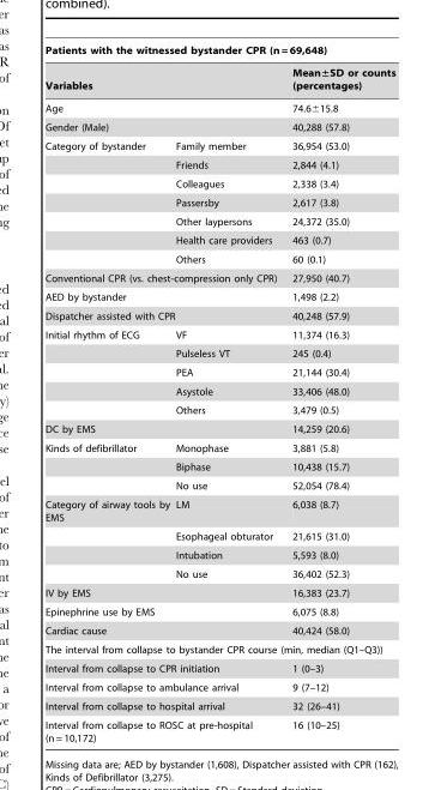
<table><thead><tr><td colspan="3">Patients with the witnessed bystander CPR (n = 69,648)</td></tr><tr><td rowspan="3" colspan="2">Variables Age Gender (Male)</td><td rowspan="4">Mean±SD or counts (percentages) 74.6±15.8 40,288 (57.8) 36,954 (53.0)</td></tr><tr></tr><tr></tr><tr><td>Category of bystander</td><td>Family member</td></tr></thead><tbody><tr><td></td><td>Friends</td><td>2,844 (4.1)</td></tr><tr><td></td><td>Colleagues</td><td>2,338 (3.4)</td></tr><tr><td></td><td>Passersby</td><td>2,617 (3.8)</td></tr><tr><td></td><td>Other laypersons</td><td>24,372 (35.0)</td></tr><tr><td></td><td>Health care providers</td><td>463 (0.7)</td></tr><tr><td></td><td>Others</td><td>60 (0.1)</td></tr><tr><td colspan="2">Conventional CPR (vs. chest-compression only CPR)</td><td>27,950 (40.7)</td></tr><tr><td colspan="2">AED by bystander</td><td>1,498 (2.2)</td></tr><tr><td colspan="2">Dispatcher assisted with CPR</td><td>40,248 (57.9)</td></tr><tr><td rowspan="5">Initial rhythm of ECG</td><td>VF</td><td>11,374 (16.3)</td></tr><tr><td>Pulseless VT</td><td>245 (0.4)</td></tr><tr><td>PEA</td><td>21,144 (30.4)</td></tr><tr><td>Asystole</td><td>33,406 (48.0)</td></tr><tr><td>Others</td><td>3,479 (0.5)</td></tr><tr><td colspan="2">DC by EMS</td><td>14,259 (20.6)</td></tr><tr><td rowspan="3">Kinds of defibrillator</td><td>Monophase</td><td>3,881 (5.8)</td></tr><tr><td>Biphase</td><td>10,438 (15.7)</td></tr><tr><td>No use</td><td>52,054 (78.4)</td></tr><tr><td rowspan="4">Category of airway tools by EMS</td><td>LM</td><td>6,038 (8.7)</td></tr><tr><td>Esophageal obturator</td><td>21,615 (31.0)</td></tr><tr><td>Intubation</td><td>5,593 (8.0)</td></tr><tr><td>No use</td><td>36,402 (52.3)</td></tr><tr><td colspan="2">IV by EMS</td><td>16,383 (23.7)</td></tr><tr><td colspan="2">Epinephrine use by EMS</td><td>6,075 (8.8)</td></tr><tr><td colspan="2">Cardiac cause</td><td>40,424 (58.0)</td></tr><tr><td colspan="3">The interval from collapse to bystander CPR course (min, median (Q1–Q3))</td></tr><tr><td colspan="2">Interval from collapse to CPR initiation</td><td>1 (0–3)</td></tr><tr><td colspan="2">Interval from collapse to ambulance arrival</td><td>9 (7–12)</td></tr><tr><td colspan="2">Interval from collapse to hospital arrival</td><td>32 (26–41)</td></tr><tr><td colspan="2">Interval from collapse to ROSC at pre-hospital (n = 10,172)</td><td>16 (10–25)</td></tr></tbody></table>